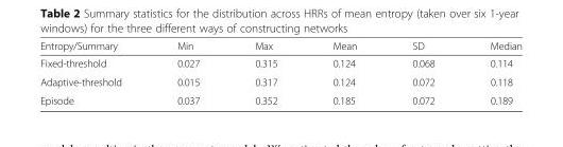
<table><thead><tr><td>Entropy/Summary</td><td>Min</td><td>Max</td><td>Mean</td><td>SD</td><td>Median</td></tr></thead><tbody><tr><td>Fixed-threshold</td><td>0.027</td><td>0.315</td><td>0.124</td><td>0.068</td><td>0.114</td></tr><tr><td>Adaptive-threshold</td><td>0.015</td><td>0.317</td><td>0.124</td><td>0.072</td><td>0.118</td></tr><tr><td>Episode</td><td>0.037</td><td>0.352</td><td>0.185</td><td>0.072</td><td>0.189</td></tr></tbody></table>